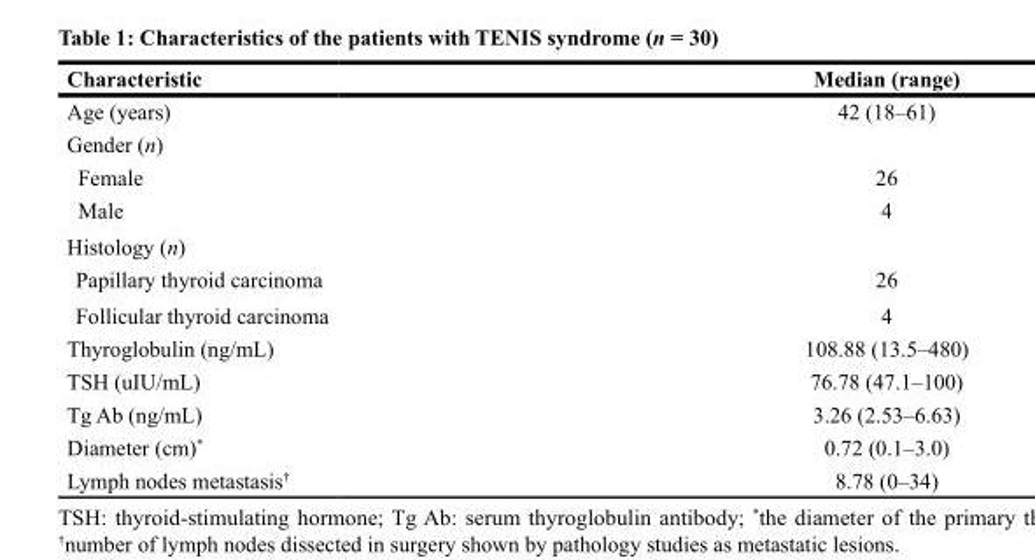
<table><thead><tr><td>Characteristic</td><td>Median (range)</td></tr></thead><tbody><tr><td>Age (years)</td><td>42 (18–61)</td></tr><tr><td colspan="2">Gender (n)</td></tr><tr><td>Female</td><td>26</td></tr><tr><td>Male</td><td>4</td></tr><tr><td colspan="2">Histology (n)</td></tr><tr><td>Papillary thyroid carcinoma</td><td>26</td></tr><tr><td>Follicular thyroid carcinoma</td><td>4</td></tr><tr><td>Thyroglobulin (ng/mL)</td><td>108.88 (13.5–480)</td></tr><tr><td>TSH (uIU/mL)</td><td>76.78 (47.1–100)</td></tr><tr><td>Tg Ab (ng/mL)</td><td>3.26 (2.53–6.63)</td></tr><tr><td>Diameter (cm)*</td><td>0.72 (0.1–3.0)</td></tr><tr><td>Lymph nodes metastasis<sup>†</sup></td><td>8.78 (0–34)</td></tr></tbody></table>